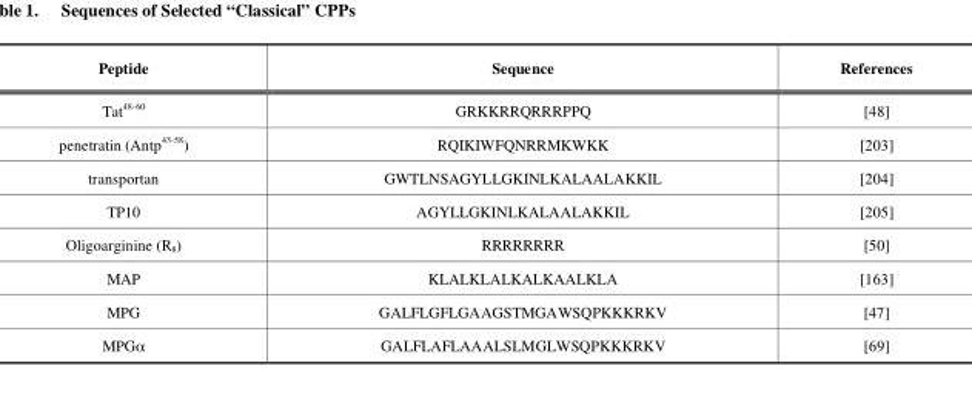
<table><thead><tr><td>Peptide</td><td>Sequence</td><td>References</td></tr></thead><tbody><tr><td>Tat<sup>48-60</sup></td><td>GRKKRRQRRRPPQ</td><td>[48]</td></tr><tr><td>penetratin (Antp<sup>43-58</sup>)</td><td>RQIKIWFQNRRMKWKK</td><td>[203]</td></tr><tr><td>transportan</td><td>GWTLNSAGYLLGKINLKALAALAKKIL</td><td>[204]</td></tr><tr><td>TP10</td><td>AGYLLGKINLKALAALAKKIL</td><td>[205]</td></tr><tr><td>Oligoarginine (R<sub>8</sub>)</td><td>RRRRRRRR</td><td>[50]</td></tr><tr><td>MAP</td><td>KLALKLALKALKAALKLA</td><td>[163]</td></tr><tr><td>MPG</td><td>GALFLGFLGAAGSTMGAWSQPKKKRKV</td><td>[47]</td></tr><tr><td>MPGα</td><td>GALFLAFLAAALSLMGLWSQPKKKRKV</td><td>[69]</td></tr></tbody></table>